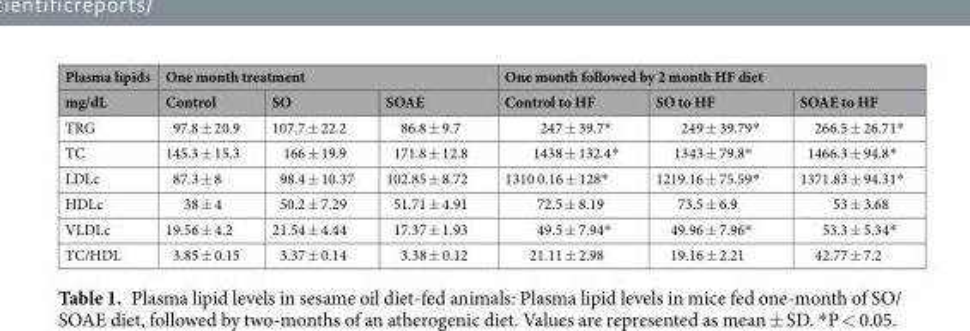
<table><thead><tr><td rowspan="2">Plasma lipids mg/dL</td><td colspan="3">One month treatment</td><td colspan="3">One month followed by 2 month HF diet</td></tr><tr><td>Control</td><td>SO</td><td>SOAE</td><td>Control to HF</td><td>SO to HF</td><td>SOAE to HF</td></tr></thead><tbody><tr><td>TRG</td><td>97.8 ± 20.9</td><td>107.7 ± 22.2</td><td>86.8 ± 9.7</td><td>247 ± 39.7*</td><td>249 ± 39.79*</td><td>266.5 ± 26.71*</td></tr><tr><td>TC</td><td>145.3 ± 15.3</td><td>166 ± 19.9</td><td>171.8 ± 12.8</td><td>1438 ± 132.4*</td><td>1343 ± 79.8*</td><td>1466.3 ± 94.8*</td></tr><tr><td>LDLc</td><td>87.3 ± 8</td><td>98.4 ± 10.37</td><td>102.85 ± 8.72</td><td>1310 0.16 ± 128*</td><td>1219.16 ± 75.59*</td><td>1371.83 ± 94.31*</td></tr><tr><td>HDLc</td><td>38 ± 4</td><td>50.2 ± 7.29</td><td>51.71 ± 4.91</td><td>72.5 ± 8.19</td><td>73.5 ± 6.9</td><td>53 ± 3.68</td></tr><tr><td>VLDLc</td><td>19.56 ± 4.2</td><td>21.54 ± 4.44</td><td>17.37 ± 1.93</td><td>49.5 ± 7.94*</td><td>49.96 ± 7.96*</td><td>53.3 ± 5.34*</td></tr><tr><td>TC/HDL</td><td>3.85 ± 0.15</td><td>3.37 ± 0.14</td><td>3.38 ± 0.12</td><td>21.11 ± 2.98</td><td>19.16 ± 2.21</td><td>42.77 ± 7.2</td></tr></tbody></table>